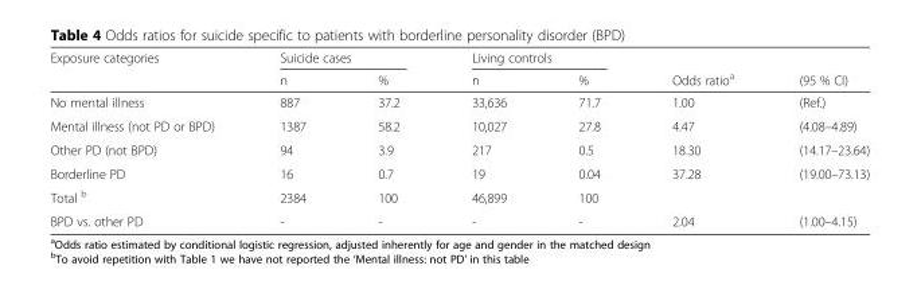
<table><thead><tr><td rowspan="2">Exposure categories</td><td colspan="2">Suicide cases</td><td colspan="2">Living controls</td><td rowspan="2">Odds ratio<sup>a</sup></td><td rowspan="2">(95 % CI)</td></tr><tr><td>n</td><td>%</td><td>n</td><td>%</td></tr></thead><tbody><tr><td>No mental illness</td><td>887</td><td>37.2</td><td>33,636</td><td>71.7</td><td>1.00</td><td>(Ref.)</td></tr><tr><td>Mental illness (not PD or BPD)</td><td>1387</td><td>58.2</td><td>10,027</td><td>27.8</td><td>4.47</td><td>(4.08–4.89)</td></tr><tr><td>Other PD (not BPD)</td><td>94</td><td>3.9</td><td>217</td><td>0.5</td><td>18.30</td><td>(14.17–23.64)</td></tr><tr><td>Borderline PD</td><td>16</td><td>0.7</td><td>19</td><td>0.04</td><td>37.28</td><td>(19.00–73.13)</td></tr><tr><td>Total <sup>b</sup></td><td>2384</td><td>100</td><td>46,899</td><td>100</td><td></td><td></td></tr><tr><td>BPD vs. other PD</td><td>-</td><td>-</td><td>-</td><td>-</td><td>2.04</td><td>(1.00–4.15)</td></tr></tbody></table>